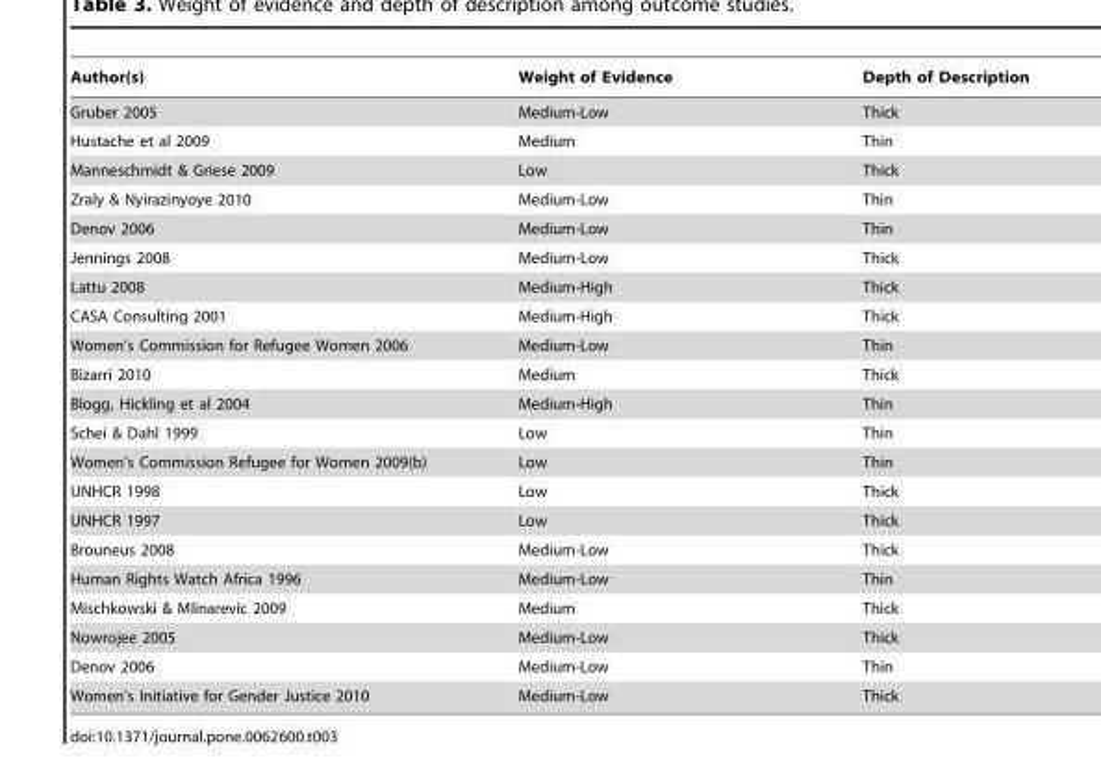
<table><thead><tr><td>Author(s)</td><td>Weight of Evidence</td><td>Depth of Description</td></tr></thead><tbody><tr><td>Gruber 2005</td><td>Medium-Low</td><td>Thick</td></tr><tr><td>Hustache et al 2009</td><td>Medium</td><td>Thin</td></tr><tr><td>Manneschmidt &amp; Griese 2009</td><td>Low</td><td>Thick</td></tr><tr><td>Zraly &amp; Nyirazinyoye 2010</td><td>Medium-Low</td><td>Thin</td></tr><tr><td>Denov 2006</td><td>Medium-Low</td><td>Thin</td></tr><tr><td>Jennings 2008</td><td>Medium-Low</td><td>Thick</td></tr><tr><td>Lattu 2008</td><td>Medium-High</td><td>Thick</td></tr><tr><td>CASA Consulting 2001</td><td>Medium-High</td><td>Thick</td></tr><tr><td>Women’s Commission for Refugee Women 2006</td><td>Medium-Low</td><td>Thin</td></tr><tr><td>Bizarri 2010</td><td>Medium</td><td>Thick</td></tr><tr><td>Blogg, Hickling et al 2004</td><td>Medium-High</td><td>Thin</td></tr><tr><td>Schei &amp; Dahl 1999</td><td>Low</td><td>Thin</td></tr><tr><td>Women’s Commission Refugee for Women 2009(b)</td><td>Low</td><td>Thin</td></tr><tr><td>UNHCR 1998</td><td>Low</td><td>Thick</td></tr><tr><td>UNHCR 1997</td><td>Low</td><td>Thick</td></tr><tr><td>Brouneus 2008</td><td>Medium-Low</td><td>Thick</td></tr><tr><td>Human Rights Watch Africa 1996</td><td>Medium-Low</td><td>Thin</td></tr><tr><td>Mischkowski &amp; Mlinarevic 2009</td><td>Medium</td><td>Thick</td></tr><tr><td>Nowrojee 2005</td><td>Medium-Low</td><td>Thick</td></tr><tr><td>Denov 2006</td><td>Medium-Low</td><td>Thin</td></tr><tr><td>Women’s Initiative for Gender Justice 2010</td><td>Medium-Low</td><td>Thick</td></tr></tbody></table>